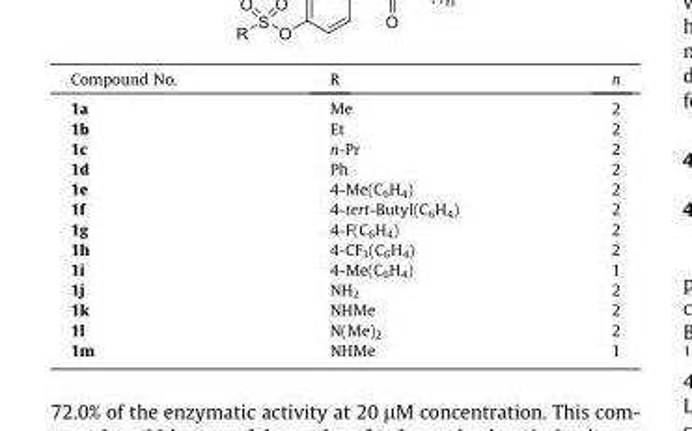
<table><thead><tr><td>Compound No.</td><td>R</td><td>n</td></tr></thead><tbody><tr><td>1a</td><td>Me</td><td>2</td></tr><tr><td>1b</td><td>Et</td><td>2</td></tr><tr><td>1c</td><td>n-Pr</td><td>2</td></tr><tr><td>1d</td><td>Ph</td><td>2</td></tr><tr><td>1e</td><td>4-Me(C<sub>6</sub>H<sub>4</sub>)</td><td>2</td></tr><tr><td>1f</td><td>4-tert-Butyl(C<sub>6</sub>H<sub>4</sub>)</td><td>2</td></tr><tr><td>1g</td><td>4-F(C<sub>6</sub>H<sub>4</sub>)</td><td>2</td></tr><tr><td>1h</td><td>4-CF<sub>3</sub>(C<sub>6</sub>H<sub>4</sub>)</td><td>2</td></tr><tr><td>1i</td><td>4-Me(C<sub>6</sub>H<sub>4</sub>)</td><td>1</td></tr><tr><td>1j</td><td>NH<sub>2</sub></td><td>2</td></tr><tr><td>1k</td><td>NHMe</td><td>2</td></tr><tr><td>1l</td><td>N(Me)<sub>2</sub></td><td>2</td></tr><tr><td>1m</td><td>NHMe</td><td>1</td></tr></tbody></table>